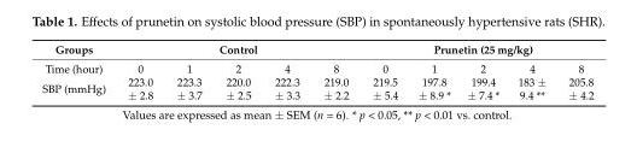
<table><thead><tr><td rowspan="2">Groups Time (hour)</td><td colspan="5">Control</td><td colspan="5">Prunetin (25 mg/kg)</td></tr><tr><td>0</td><td>1</td><td>2</td><td>4</td><td>8</td><td>0</td><td>1</td><td>2</td><td>4</td><td>8</td></tr></thead><tbody><tr><td>SBP (mmHg)</td><td>223.0 ± 2.8</td><td>223.3 ± 3.7</td><td>220.0 ± 2.5</td><td>222.3 ± 3.3</td><td>219.0 ± 2.2</td><td>219.5 ± 5.4</td><td>197.8 ± 8.9 *</td><td>199.4 ± 7.4 *</td><td>183 ± 9.4 **</td><td>205.8 ± 4.2</td></tr></tbody></table>